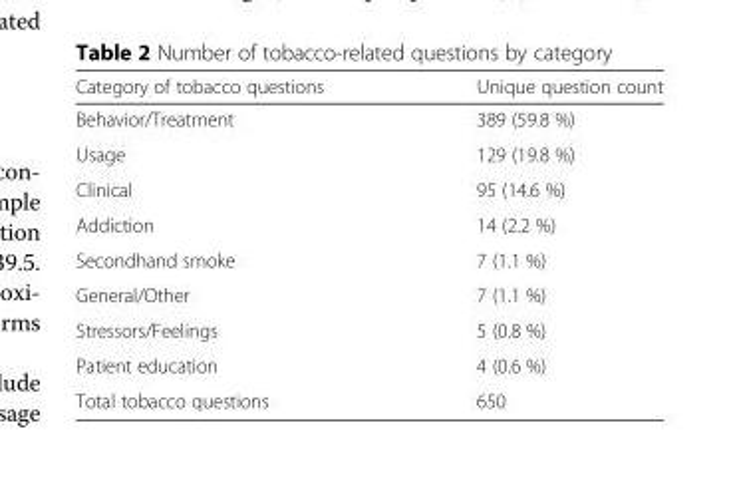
<table><thead><tr><td>Category of tobacco questions</td><td>Unique question count</td></tr></thead><tbody><tr><td>Behavior/Treatment</td><td>389 (59.8 %)</td></tr><tr><td>Usage</td><td>129 (19.8 %)</td></tr><tr><td>Clinical</td><td>95 (14.6 %)</td></tr><tr><td>Addiction</td><td>14 (2.2 %)</td></tr><tr><td>Secondhand smoke</td><td>7 (1.1 %)</td></tr><tr><td>General/Other</td><td>7 (1.1 %)</td></tr><tr><td>Stressors/Feelings</td><td>5 (0.8 %)</td></tr><tr><td>Patient education</td><td>4 (0.6 %)</td></tr><tr><td>Total tobacco questions</td><td>650</td></tr></tbody></table>